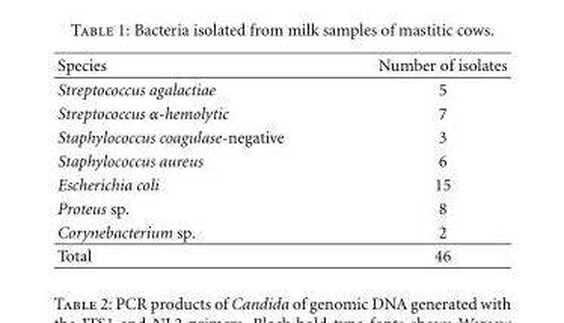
<table><thead><tr><td>Species</td><td>Number of isolates</td></tr></thead><tbody><tr><td>Streptococcus agalactiae</td><td>5</td></tr><tr><td>Streptococcus α-hemolytic</td><td>7</td></tr><tr><td>Staphylococcus coagulase-negative</td><td>3</td></tr><tr><td>Staphylococcus aureus</td><td>6</td></tr><tr><td>Escherichia coli</td><td>15</td></tr><tr><td>Proteus sp.</td><td>8</td></tr><tr><td>Corynebacterium sp.</td><td>2</td></tr><tr><td>Total</td><td>46</td></tr></tbody></table>